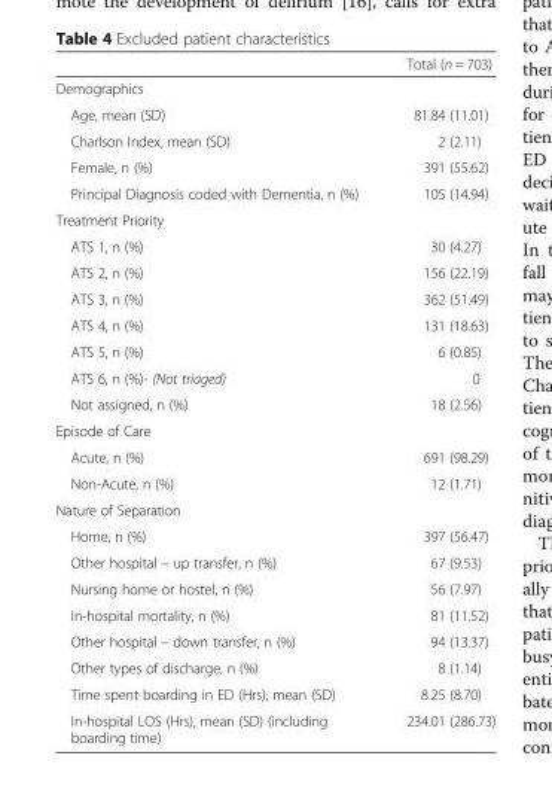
<table><thead><tr><td></td><td>Total (n = 703)</td></tr></thead><tbody><tr><td colspan="2">Demographics</td></tr><tr><td>Age, mean (SD)</td><td>81.84 (11.01)</td></tr><tr><td>Charlson Index, mean (SD)</td><td>2 (2.11)</td></tr><tr><td>Female, n (%)</td><td>391 (55.62)</td></tr><tr><td>Principal Diagnosis coded with Dementia, n (%)</td><td>105 (14.94)</td></tr><tr><td colspan="2">Treatment Priority</td></tr><tr><td>ATS 1, n (%)</td><td>30 (4.27)</td></tr><tr><td>ATS 2, n (%)</td><td>156 (22.19)</td></tr><tr><td>ATS 3, n (%)</td><td>362 (51.49)</td></tr><tr><td>ATS 4, n (%)</td><td>131 (18.63)</td></tr><tr><td>ATS 5, n (%)</td><td>6 (0.85)</td></tr><tr><td>ATS 6, n (%)- (Not triaged)</td><td>0</td></tr><tr><td>Not assigned, n (%)</td><td>18 (2.56)</td></tr><tr><td colspan="2">Episode of Care</td></tr><tr><td>Acute, n (%)</td><td>691 (98.29)</td></tr><tr><td>Non-Acute, n (%)</td><td>12 (1.71)</td></tr><tr><td colspan="2">Nature of Separation</td></tr><tr><td>Home, n (%)</td><td>397 (56.47)</td></tr><tr><td>Other hospital – up transfer, n (%)</td><td>67 (9.53)</td></tr><tr><td>Nursing home or hostel, n (%)</td><td>56 (7.97)</td></tr><tr><td>In-hospital mortality, n (%)</td><td>81 (11.52)</td></tr><tr><td>Other hospital – down transfer, n (%)</td><td>94 (13.37)</td></tr><tr><td>Other types of discharge, n (%)</td><td>8 (1.14)</td></tr><tr><td>Time spent boarding in ED (Hrs), mean (SD)</td><td>8.25 (8.70)</td></tr><tr><td>In-hospital LOS (Hrs), mean (SD) (including boarding time)</td><td>234.01 (286.73)</td></tr></tbody></table>